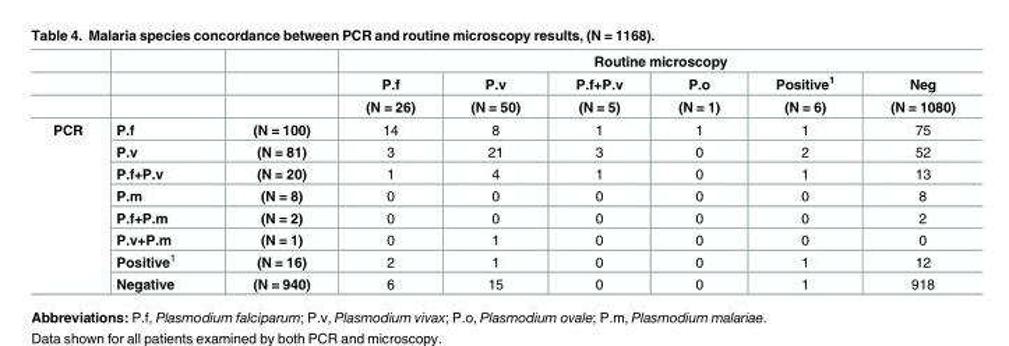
<table><thead><tr><td rowspan="3"></td><td rowspan="3"></td><td rowspan="3"></td><td colspan="6">Routine microscopy</td></tr><tr><td rowspan="2">P.f (N = 26)</td><td rowspan="2">P.v (N = 50)</td><td rowspan="2">P.f+P.v (N = 5)</td><td rowspan="2">P.o (N = 1)</td><td rowspan="2">Positive1 (N = 6)</td><td rowspan="2">Neg (N = 1080)</td></tr><tr></tr></thead><tbody><tr><td rowspan="8">PCR</td><td>P.f</td><td>(N = 100)</td><td>14</td><td>8</td><td>1</td><td>1</td><td>1</td><td>75</td></tr><tr><td>P.v</td><td>(N = 81)</td><td>3</td><td>21</td><td>3</td><td>0</td><td>2</td><td>52</td></tr><tr><td>P.f+P.v</td><td>(N = 20)</td><td>1</td><td>4</td><td>1</td><td>0</td><td>1</td><td>13</td></tr><tr><td>P.m</td><td>(N = 8)</td><td>0</td><td>0</td><td>0</td><td>0</td><td>0</td><td>8</td></tr><tr><td>P.f+P.m</td><td>(N = 2)</td><td>0</td><td>0</td><td>0</td><td>0</td><td>0</td><td>2</td></tr><tr><td>P.v+P.m</td><td>(N = 1)</td><td>0</td><td>1</td><td>0</td><td>0</td><td>0</td><td>0</td></tr><tr><td>Positive1</td><td>(N = 16)</td><td>2</td><td>1</td><td>0</td><td>0</td><td>1</td><td>12</td></tr><tr><td>Negative</td><td>(N = 940)</td><td>6</td><td>15</td><td>0</td><td>0</td><td>1</td><td>918</td></tr></tbody></table>